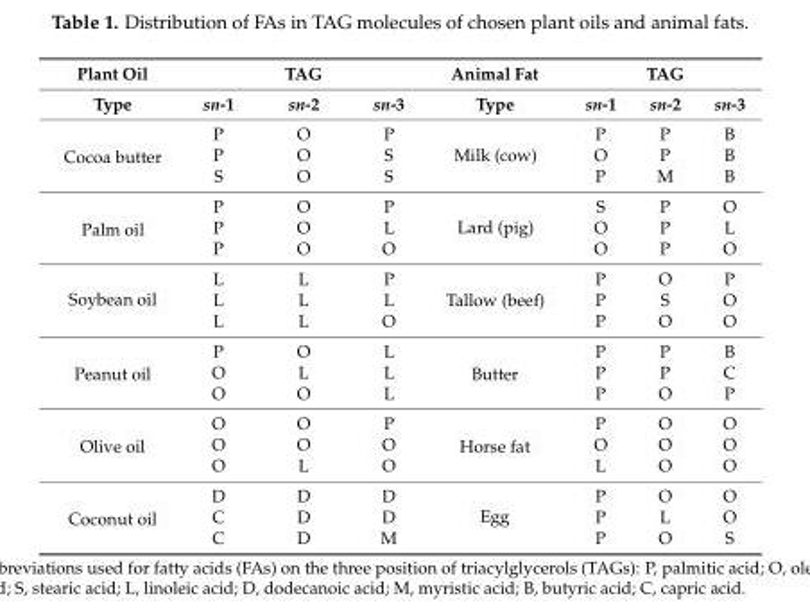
<table><thead><tr><td rowspan="2">Plant Oil Type</td><td colspan="3">TAG</td><td rowspan="2">Animal Fat Type</td><td colspan="3">TAG</td></tr><tr><td>sn-1</td><td>sn-2</td><td>sn-3</td><td>sn-1</td><td>sn-2</td><td>sn-3</td></tr></thead><tbody><tr><td rowspan="3">Cocoa butter</td><td>P</td><td>O</td><td>P</td><td rowspan="3">Milk (cow)</td><td>P</td><td>P</td><td>B</td></tr><tr><td>P</td><td>O</td><td>S</td><td>O</td><td>P</td><td>B</td></tr><tr><td>S</td><td>O</td><td>S</td><td>P</td><td>M</td><td>B</td></tr><tr><td rowspan="3">Palm oil</td><td>P</td><td>O</td><td>P</td><td rowspan="3">Lard (pig)</td><td>S</td><td>P</td><td>O</td></tr><tr><td>P</td><td>O</td><td>L</td><td>O</td><td>P</td><td>L</td></tr><tr><td>P</td><td>O</td><td>O</td><td>O</td><td>P</td><td>O</td></tr><tr><td rowspan="3">Soybean oil</td><td>L</td><td>L</td><td>P</td><td rowspan="3">Tallow (beef)</td><td>P</td><td>O</td><td>P</td></tr><tr><td>L</td><td>L</td><td>L</td><td>P</td><td>S</td><td>O</td></tr><tr><td>L</td><td>L</td><td>O</td><td>P</td><td>O</td><td>O</td></tr><tr><td rowspan="3">Peanut oil</td><td>P</td><td>O</td><td>L</td><td rowspan="3">Butter</td><td>P</td><td>P</td><td>B</td></tr><tr><td>O</td><td>L</td><td>L</td><td>P</td><td>P</td><td>C</td></tr><tr><td>O</td><td>O</td><td>L</td><td>P</td><td>O</td><td>P</td></tr><tr><td rowspan="3">Olive oil</td><td>O</td><td>O</td><td>P</td><td rowspan="3">Horse fat</td><td>P</td><td>O</td><td>O</td></tr><tr><td>O</td><td>O</td><td>O</td><td>O</td><td>O</td><td>O</td></tr><tr><td>O</td><td>L</td><td>O</td><td>L</td><td>O</td><td>O</td></tr><tr><td rowspan="3">Coconut oil</td><td>D</td><td>D</td><td>D</td><td rowspan="3">Egg</td><td>P</td><td>O</td><td>O</td></tr><tr><td>C</td><td>D</td><td>D</td><td>P</td><td>L</td><td>O</td></tr><tr><td>C</td><td>D</td><td>M</td><td>P</td><td>O</td><td>S</td></tr></tbody></table>